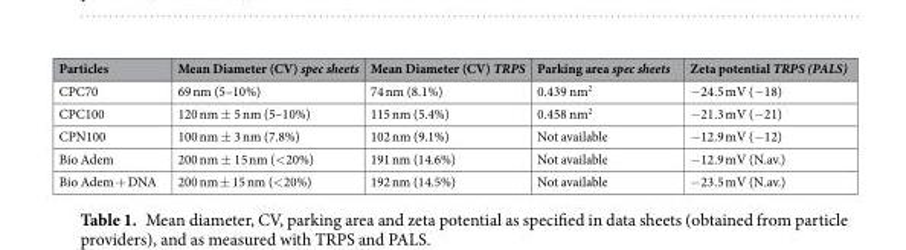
<table><thead><tr><td>Particles</td><td>Mean Diameter (CV) spec sheets</td><td>Mean Diameter (CV) TRPS</td><td>Parking area spec sheets</td><td>Zeta potential TRPS (PALS)</td></tr></thead><tbody><tr><td>CPC70</td><td>69 nm (5–10%)</td><td>74 nm (8.1%)</td><td>0.439 nm<sup>2</sup></td><td>−24.5 mV (−18)</td></tr><tr><td>CPC100</td><td>120 nm ± 5 nm (5–10%)</td><td>115 nm (5.4%)</td><td>0.458 nm<sup>2</sup></td><td>−21.3 mV (−21)</td></tr><tr><td>CPN100</td><td>100 nm ± 3 nm (7.8%)</td><td>102 nm (9.1%)</td><td>Not available</td><td>−12.9 mV (−12)</td></tr><tr><td>Bio Adem</td><td>200 nm ± 15 nm (&lt;20%)</td><td>191 nm (14.6%)</td><td>Not available</td><td>−12.9 mV (N.av.)</td></tr><tr><td>Bio Adem + DNA</td><td>200 nm ± 15 nm (&lt;20%)</td><td>192 nm (14.5%)</td><td>Not available</td><td>−23.5 mV (N.av.)</td></tr></tbody></table>